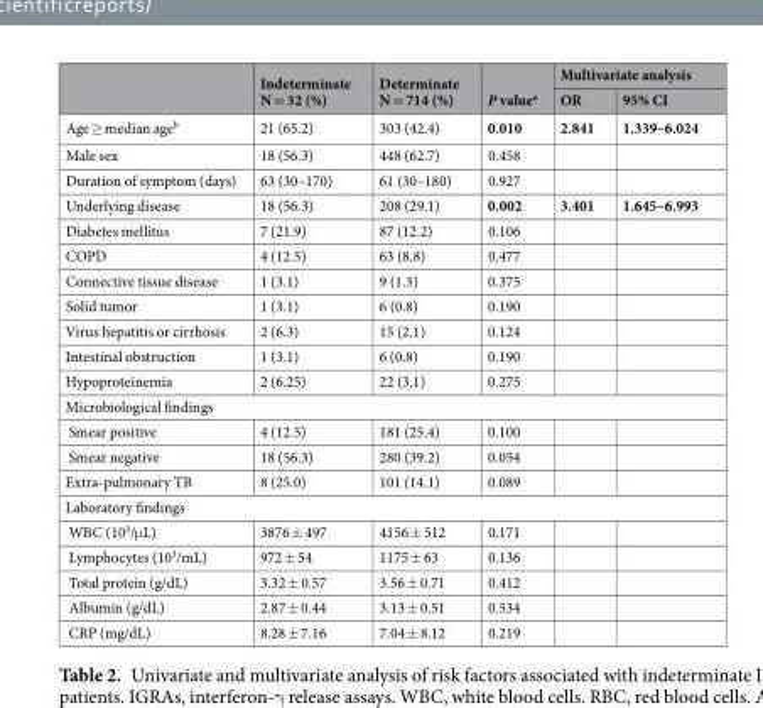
<table><thead><tr><td rowspan="2"></td><td rowspan="2">Indeterminate N = 32 (%)</td><td rowspan="2">Determinate N = 714 (%)</td><td rowspan="2">P value<sup>a</sup></td><td colspan="2">Multivariate analysis</td></tr><tr><td>OR</td><td>95% CI</td></tr></thead><tbody><tr><td>Age ≥ median age<sup>b</sup></td><td>21 (65.2)</td><td>303 (42.4)</td><td>0.010</td><td>2.841</td><td>1.339–6.024</td></tr><tr><td>Male sex</td><td>18 (56.3)</td><td>448 (62.7)</td><td>0.458</td><td></td><td></td></tr><tr><td>Duration of symptom (days)</td><td>63 (30–170)</td><td>61 (30–180)</td><td>0.927</td><td></td><td></td></tr><tr><td>Underlying disease</td><td>18 (56.3)</td><td>208 (29.1)</td><td>0.002</td><td>3.401</td><td>1.645–6.993</td></tr><tr><td>Diabetes mellitus</td><td>7 (21.9)</td><td>87 (12.2)</td><td>0.106</td><td></td><td></td></tr><tr><td>COPD</td><td>4 (12.5)</td><td>63 (8.8)</td><td>0.477</td><td></td><td></td></tr><tr><td>Connective tissue disease</td><td>1 (3.1)</td><td>9 (1.3)</td><td>0.375</td><td></td><td></td></tr><tr><td>Solid tumor</td><td>1 (3.1)</td><td>6 (0.8)</td><td>0.190</td><td></td><td></td></tr><tr><td>Virus hepatitis or cirrhosis</td><td>2 (6.3)</td><td>15 (2.1)</td><td>0.124</td><td></td><td></td></tr><tr><td>Intestinal obstruction</td><td>1 (3.1)</td><td>6 (0.8)</td><td>0.190</td><td></td><td></td></tr><tr><td>Hypoproteinemia</td><td>2 (6.25)</td><td>22 (3.1)</td><td>0.275</td><td></td><td></td></tr><tr><td colspan="6">Microbiological findings</td></tr><tr><td>Smear positive</td><td>4 (12.5)</td><td>181 (25.4)</td><td>0.100</td><td></td><td></td></tr><tr><td>Smear negative</td><td>18 (56.3)</td><td>280 (39.2)</td><td>0.054</td><td></td><td></td></tr><tr><td>Extra-pulmonary TB</td><td>8 (25.0)</td><td>101 (14.1)</td><td>0.089</td><td></td><td></td></tr><tr><td colspan="6">Laboratory findings</td></tr><tr><td>WBC (10<sup>3</sup>/μL)</td><td>3876 ± 497</td><td>4156 ± 512</td><td>0.171</td><td></td><td></td></tr><tr><td>Lymphocytes (10<sup>3</sup>/mL)</td><td>972 ± 54</td><td>1175 ± 63</td><td>0.136</td><td></td><td></td></tr><tr><td>Total protein (g/dL)</td><td>3.32 ± 0.57</td><td>3.56 ± 0.71</td><td>0.412</td><td></td><td></td></tr><tr><td>Albumin (g/dL)</td><td>2.87 ± 0.44</td><td>3.13 ± 0.51</td><td>0.534</td><td></td><td></td></tr><tr><td>CRP (mg/dL)</td><td>8.28 ± 7.16</td><td>7.04 ± 8.12</td><td>0.219</td><td></td><td></td></tr></tbody></table>